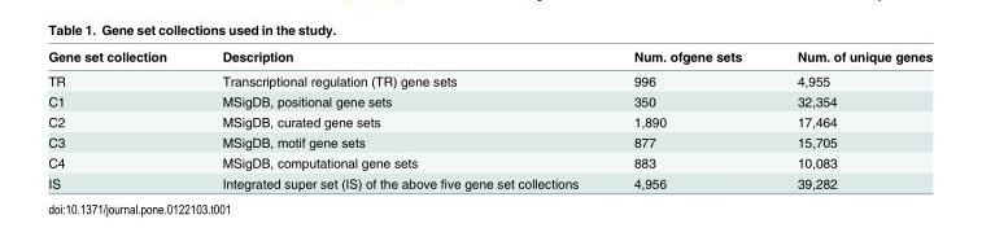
<table><thead><tr><td>Gene set collection</td><td>Description</td><td>Num. ofgene sets</td><td>Num. of unique genes</td></tr></thead><tbody><tr><td>TR</td><td>Transcriptional regulation (TR) gene sets</td><td>996</td><td>4,955</td></tr><tr><td>C1</td><td>MSigDB, positional gene sets</td><td>350</td><td>32,354</td></tr><tr><td>C2</td><td>MSigDB, curated gene sets</td><td>1,890</td><td>17,464</td></tr><tr><td>C3</td><td>MSigDB, motif gene sets</td><td>877</td><td>15,705</td></tr><tr><td>C4</td><td>MSigDB, computational gene sets</td><td>883</td><td>10,083</td></tr><tr><td>IS</td><td>Integrated super set (IS) of the above five gene set collections</td><td>4,956</td><td>39,282</td></tr></tbody></table>